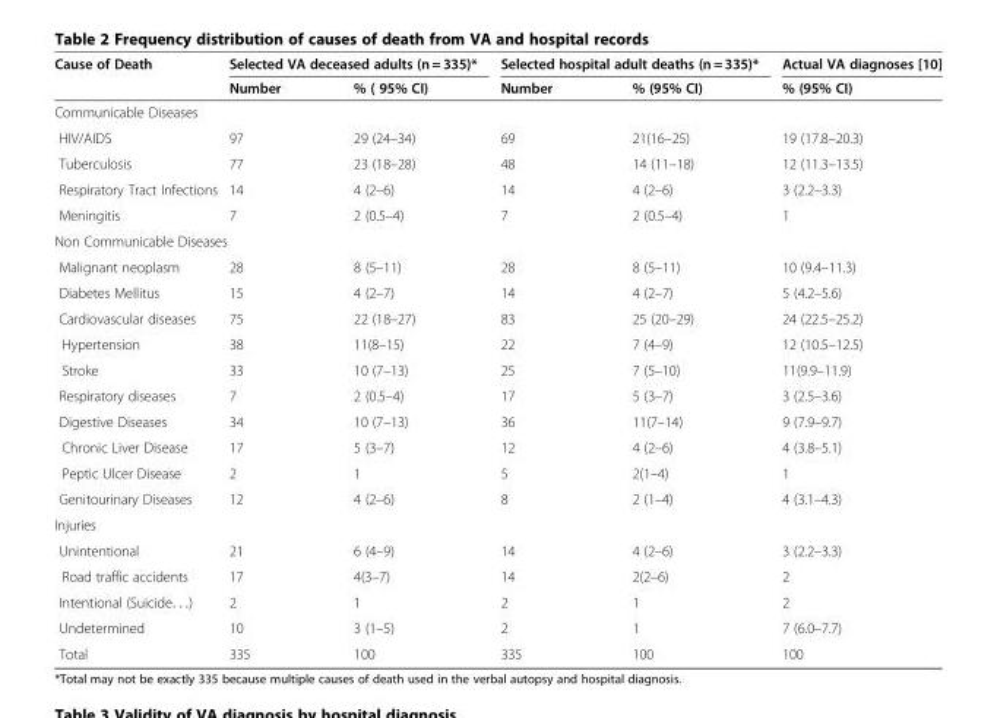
<table><thead><tr><td rowspan="2">Cause of Death</td><td colspan="2">Selected VA deceased adults (n = 335)*</td><td colspan="2">Selected hospital adult deaths (n = 335)*</td><td rowspan="2">Actual VA diagnoses [10] % (95% CI)</td></tr><tr><td>Number</td><td>% ( 95% CI)</td><td>Number</td><td>% (95% CI)</td></tr></thead><tbody><tr><td colspan="6">Communicable Diseases</td></tr><tr><td>HIV/AIDS</td><td>97</td><td>29 (24–34)</td><td>69</td><td>21(16–25)</td><td>19 (17.8–20.3)</td></tr><tr><td>Tuberculosis</td><td>77</td><td>23 (18–28)</td><td>48</td><td>14 (11–18)</td><td>12 (11.3–13.5)</td></tr><tr><td>Respiratory Tract Infections</td><td>14</td><td>4 (2–6)</td><td>14</td><td>4 (2–6)</td><td>3 (2.2–3.3)</td></tr><tr><td>Meningitis</td><td>7</td><td>2 (0.5–4)</td><td>7</td><td>2 (0.5–4)</td><td>1</td></tr><tr><td colspan="6">Non Communicable Diseases</td></tr><tr><td>Malignant neoplasm</td><td>28</td><td>8 (5–11)</td><td>28</td><td>8 (5–11)</td><td>10 (9.4–11.3)</td></tr><tr><td>Diabetes Mellitus</td><td>15</td><td>4 (2–7)</td><td>14</td><td>4 (2–7)</td><td>5 (4.2–5.6)</td></tr><tr><td>Cardiovascular diseases</td><td>75</td><td>22 (18–27)</td><td>83</td><td>25 (20–29)</td><td>24 (22.5–25.2)</td></tr><tr><td>Hypertension</td><td>38</td><td>11(8–15)</td><td>22</td><td>7 (4–9)</td><td>12 (10.5–12.5)</td></tr><tr><td>Stroke</td><td>33</td><td>10 (7–13)</td><td>25</td><td>7 (5–10)</td><td>11(9.9–11.9)</td></tr><tr><td>Respiratory diseases</td><td>7</td><td>2 (0.5–4)</td><td>17</td><td>5 (3–7)</td><td>3 (2.5–3.6)</td></tr><tr><td>Digestive Diseases</td><td>34</td><td>10 (7–13)</td><td>36</td><td>11(7–14)</td><td>9 (7.9–9.7)</td></tr><tr><td>Chronic Liver Disease</td><td>17</td><td>5 (3–7)</td><td>12</td><td>4 (2–6)</td><td>4 (3.8–5.1)</td></tr><tr><td>Peptic Ulcer Disease</td><td>2</td><td>1</td><td>5</td><td>2(1–4)</td><td>1</td></tr><tr><td>Genitourinary Diseases</td><td>12</td><td>4 (2–6)</td><td>8</td><td>2 (1–4)</td><td>4 (3.1–4.3)</td></tr><tr><td colspan="6">Injuries</td></tr><tr><td>Unintentional</td><td>21</td><td>6 (4–9)</td><td>14</td><td>4 (2–6)</td><td>3 (2.2–3.3)</td></tr><tr><td>Road traffic accidents</td><td>17</td><td>4(3–7)</td><td>14</td><td>2(2–6)</td><td>2</td></tr><tr><td>Intentional (Suicide. . .)</td><td>2</td><td>1</td><td>2</td><td>1</td><td>2</td></tr><tr><td>Undetermined</td><td>10</td><td>3 (1–5)</td><td>2</td><td>1</td><td>7 (6.0–7.7)</td></tr><tr><td>Total</td><td>335</td><td>100</td><td>335</td><td>100</td><td>100</td></tr></tbody></table>